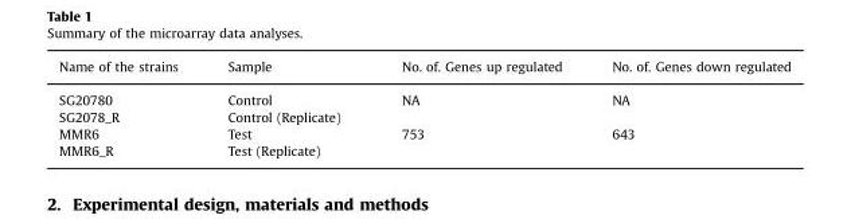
<table><thead><tr><td>Name of the strains</td><td>Sample</td><td>No. of. Genes up regulated</td><td>No. of. Genes down regulated</td></tr></thead><tbody><tr><td>SG20780</td><td>Control</td><td rowspan="2">NA</td><td rowspan="2">NA</td></tr><tr><td>SG2078_R</td><td>Control (Replicate)</td></tr><tr><td>MMR6</td><td>Test</td><td rowspan="2">753</td><td rowspan="2">643</td></tr><tr><td>MMR6_R</td><td>Test (Replicate)</td></tr></tbody></table>